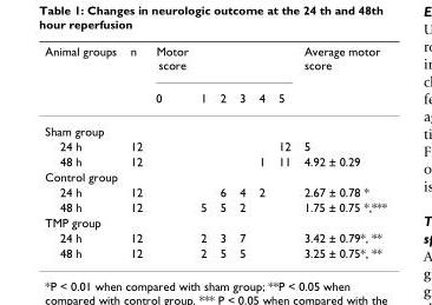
<table><thead><tr><td rowspan="2">Animal groups</td><td rowspan="2">n</td><td rowspan="2">Motor score 0</td><td rowspan="2">1</td><td rowspan="2">2</td><td rowspan="2">3</td><td rowspan="2">4</td><td rowspan="2">5</td><td rowspan="2">Average motor score</td></tr><tr></tr></thead><tbody><tr><td colspan="9">Sham group</td></tr><tr><td>24 h</td><td>12</td><td></td><td></td><td></td><td></td><td></td><td>12</td><td>5</td></tr><tr><td>48 h</td><td>12</td><td></td><td></td><td></td><td></td><td>1</td><td>11</td><td>4.92 ± 0.29</td></tr><tr><td colspan="9">Control group</td></tr><tr><td>24 h</td><td>12</td><td></td><td></td><td>6</td><td>4</td><td>2</td><td></td><td>2.67 ± 0.78 *</td></tr><tr><td>48 h</td><td>12</td><td></td><td>5</td><td>5</td><td>2</td><td></td><td></td><td>1.75 ± 0.75 *,***</td></tr><tr><td colspan="9">TMP group</td></tr><tr><td>24 h</td><td>12</td><td></td><td>2</td><td>3</td><td>7</td><td></td><td></td><td>3.42 ± 0.79*, **</td></tr><tr><td>48 h</td><td>12</td><td></td><td>2</td><td>5</td><td>5</td><td></td><td></td><td>3.25 ± 0.75*, **</td></tr></tbody></table>